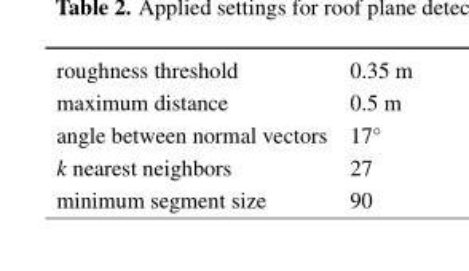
<table><tbody><tr><td>roughness threshold</td><td>0.35 m</td></tr><tr><td>maximum distance</td><td>0.5 m</td></tr><tr><td>angle between normal vectors</td><td>17◦</td></tr><tr><td>k nearest neighbors</td><td>27</td></tr><tr><td>minimum segment size</td><td>90</td></tr></tbody></table>